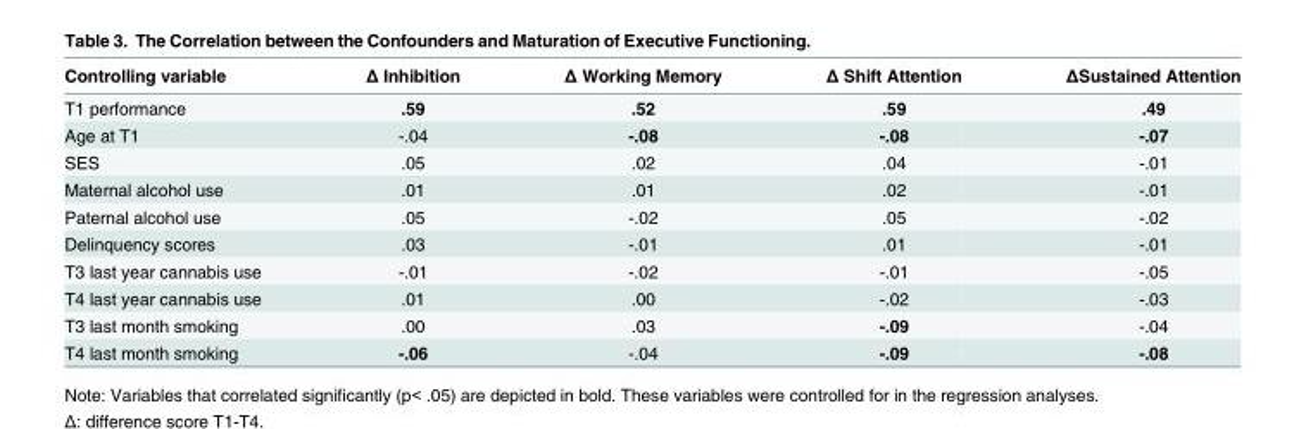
<table><thead><tr><td>Controlling variable</td><td>Δ Inhibition</td><td>Δ Working Memory</td><td>Δ Shift Attention</td><td>ΔSustained Attention</td></tr></thead><tbody><tr><td>T1 performance</td><td>.59</td><td>.52</td><td>.59</td><td>.49</td></tr><tr><td>Age at T1</td><td>-.04</td><td>-.08</td><td>-.08</td><td>-.07</td></tr><tr><td>SES</td><td>.05</td><td>.02</td><td>.04</td><td>-.01</td></tr><tr><td>Maternal alcohol use</td><td>.01</td><td>.01</td><td>.02</td><td>-.01</td></tr><tr><td>Paternal alcohol use</td><td>.05</td><td>-.02</td><td>.05</td><td>-.02</td></tr><tr><td>Delinquency scores</td><td>.03</td><td>-.01</td><td>.01</td><td>-.01</td></tr><tr><td>T3 last year cannabis use</td><td>-.01</td><td>-.02</td><td>-.01</td><td>-.05</td></tr><tr><td>T4 last year cannabis use</td><td>.01</td><td>.00</td><td>-.02</td><td>-.03</td></tr><tr><td>T3 last month smoking</td><td>.00</td><td>.03</td><td>-.09</td><td>-.04</td></tr><tr><td>T4 last month smoking</td><td>-.06</td><td>-.04</td><td>-.09</td><td>-.08</td></tr></tbody></table>